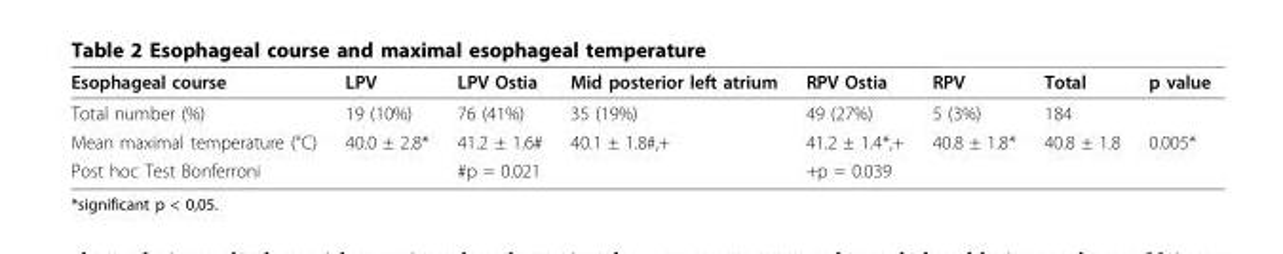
<table><thead><tr><td>Esophageal course</td><td>LPV</td><td>LPV Ostia</td><td>Mid posterior left atrium</td><td>RPV Ostia</td><td>RPV</td><td>Total</td><td>p value</td></tr></thead><tbody><tr><td>Total number (%)</td><td>19 (10%)</td><td>76 (41%)</td><td>35 (19%)</td><td>49 (27%)</td><td>5 (3%)</td><td>184</td><td></td></tr><tr><td>Mean maximal temperature (°C)</td><td>40.0 ± 2.8*</td><td>41.2 ± 1.6#</td><td>40.1 ± 1.8#,+</td><td>41.2 ± 1.4*,+</td><td>40.8 ± 1.8*</td><td>40.8 ± 1.8</td><td>0.005*</td></tr><tr><td>Post hoc Test Bonferroni</td><td></td><td colspan="2">#p = 0.021</td><td>+p = 0.039</td><td></td><td></td><td></td></tr></tbody></table>